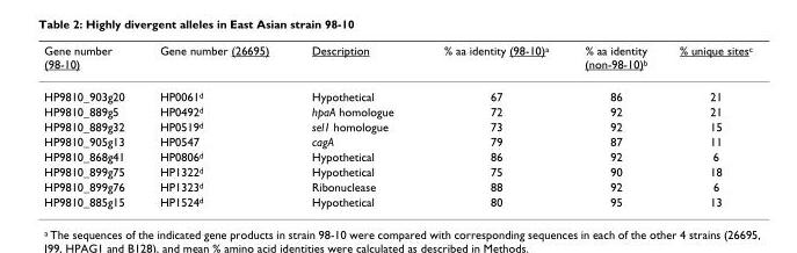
<table><thead><tr><td>Gene number (98-10)</td><td>Gene number (26695)</td><td>Description</td><td>% aa identity (98-10)<sup>a</sup></td><td>% aa identity (non-98-10)<sup>b</sup></td><td>% unique sites<sup>c</sup></td></tr></thead><tbody><tr><td>HP9810_903g20</td><td>HP0061<sup>d</sup></td><td>Hypothetical</td><td>67</td><td>86</td><td>21</td></tr><tr><td>HP9810_889g5</td><td>HP0492<sup>d</sup></td><td>hpaA homologue</td><td>72</td><td>92</td><td>21</td></tr><tr><td>HP9810_889g32</td><td>HP0519<sup>d</sup></td><td>sel1 homologue</td><td>73</td><td>92</td><td>15</td></tr><tr><td>HP9810_905g13</td><td>HP0547</td><td>cagA</td><td>79</td><td>87</td><td>11</td></tr><tr><td>HP9810_868g41</td><td>HP0806<sup>d</sup></td><td>Hypothetical</td><td>86</td><td>92</td><td>6</td></tr><tr><td>HP9810_899g75</td><td>HP1322<sup>d</sup></td><td>Hypothetical</td><td>75</td><td>90</td><td>18</td></tr><tr><td>HP9810_899g76</td><td>HP1323<sup>d</sup></td><td>Ribonuclease</td><td>88</td><td>92</td><td>6</td></tr><tr><td>HP9810_885g15</td><td>HP1524<sup>d</sup></td><td>Hypothetical</td><td>80</td><td>95</td><td>13</td></tr></tbody></table>